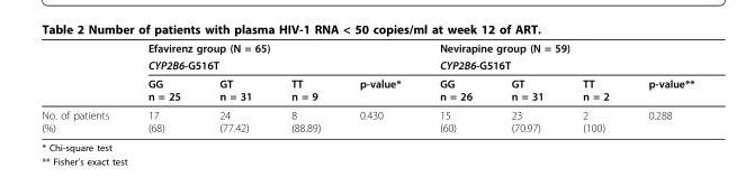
<table><thead><tr><td rowspan="3"></td><td rowspan="2" colspan="4">Efavirenz group (N = 65) CYP2B6-G516T</td><td rowspan="2" colspan="4">Nevirapine group (N = 59) CYP2B6-G516T</td></tr><tr></tr><tr><td>GG n = 25</td><td>GT n = 31</td><td>TT n = 9</td><td>p-value*</td><td>GG n = 26</td><td>GT n = 31</td><td>TT n = 2</td><td>p-value**</td></tr></thead><tbody><tr><td>No. of patients (%)</td><td>17 (68)</td><td>24 (77.42)</td><td>8 (88.89)</td><td>0.430</td><td>15 (60)</td><td>23 (70.97)</td><td>2 (100)</td><td>0.288</td></tr></tbody></table>